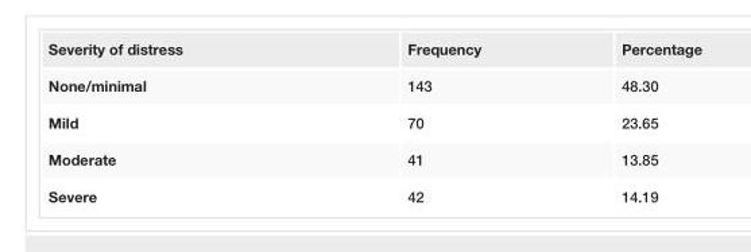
<table><tbody><tr><td>Severity of distress</td><td>Frequency</td><td>Percentage</td></tr><tr><td>None/minimal</td><td>143</td><td>48.30</td></tr><tr><td>Mild</td><td>70</td><td>23.65</td></tr><tr><td>Moderate</td><td>41</td><td>13.85</td></tr><tr><td>Severe</td><td>42</td><td>14.19</td></tr></tbody></table>